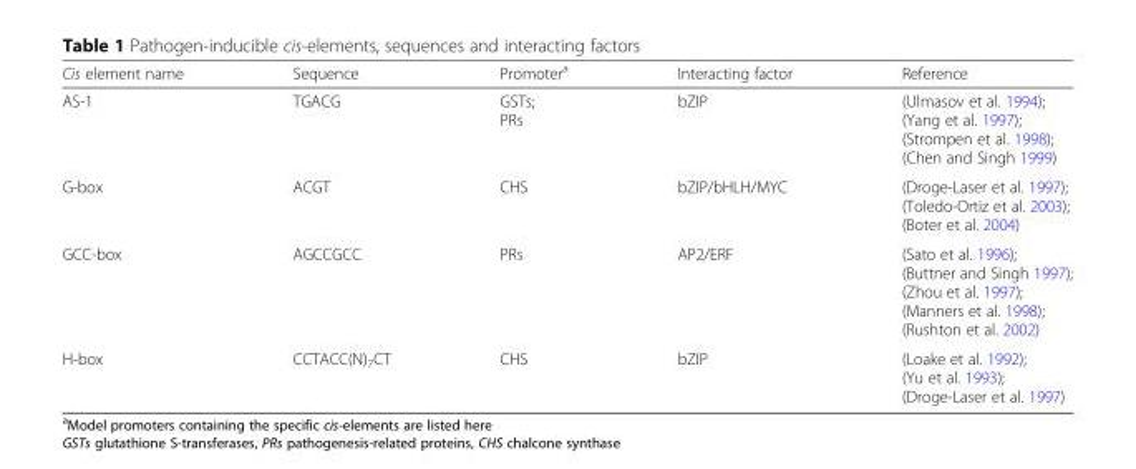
<table><thead><tr><td>Cis element name</td><td>Sequence</td><td>Promoter<sup>a</sup></td><td>Interacting factor</td><td>Reference</td></tr></thead><tbody><tr><td>AS-1</td><td>TGACG</td><td>GSTs; PRs</td><td>bZIP</td><td>(Ulmasov et al. 1994); (Yang et al. 1997); (Strompen et al. 1998); (Chen and Singh 1999)</td></tr><tr><td>G-box</td><td>ACGT</td><td>CHS</td><td>bZIP/bHLH/MYC</td><td>(Droge-Laser et al. 1997); (Toledo-Ortiz et al. 2003); (Boter et al. 2004)</td></tr><tr><td>GCC-box</td><td>AGCCGCC</td><td>PRs</td><td>AP2/ERF</td><td>(Sato et al. 1996); (Buttner and Singh 1997); (Zhou et al. 1997); (Manners et al. 1998); (Rushton et al. 2002)</td></tr><tr><td>H-box</td><td>CCTACC(N)<sub>7</sub>CT</td><td>CHS</td><td>bZIP</td><td>(Loake et al. 1992); (Yu et al. 1993); (Droge-Laser et al. 1997)</td></tr></tbody></table>